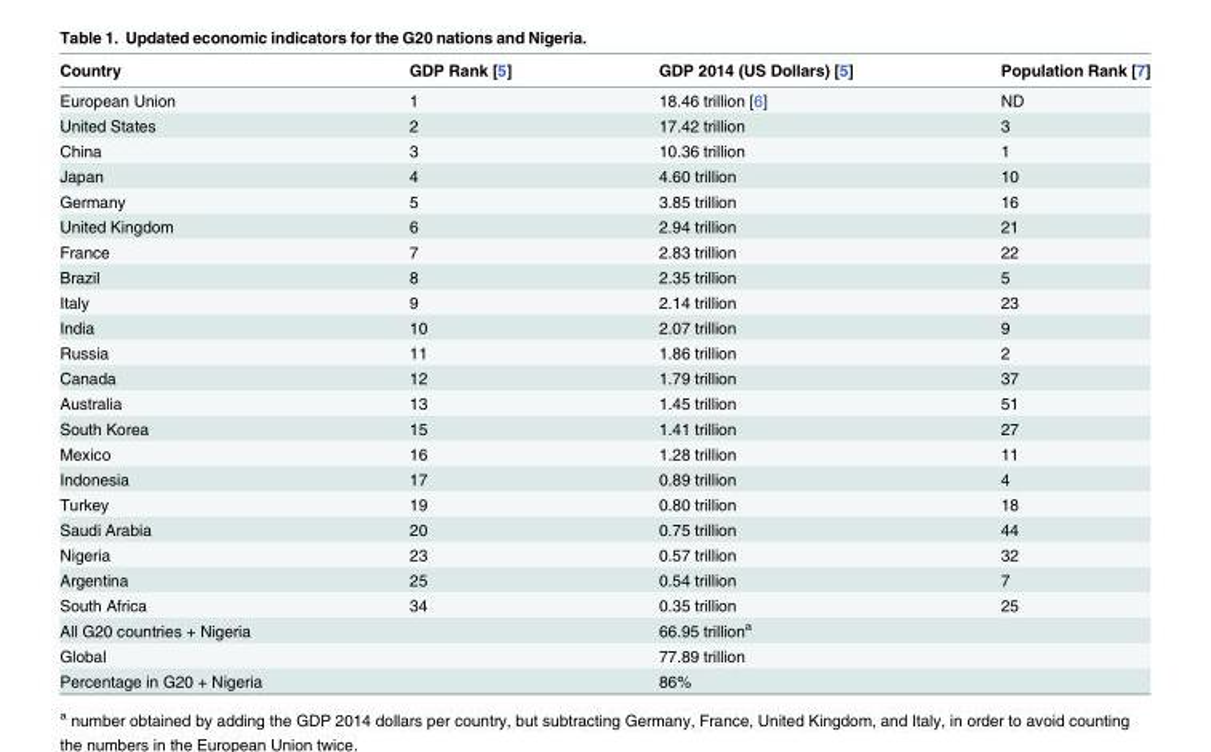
<table><thead><tr><td>Country</td><td>GDP Rank [5]</td><td>GDP 2014 (US Dollars) [5]</td><td>Population Rank [7]</td></tr></thead><tbody><tr><td>European Union</td><td>1</td><td>18.46 trillion [6]</td><td>ND</td></tr><tr><td>United States</td><td>2</td><td>17.42 trillion</td><td>3</td></tr><tr><td>China</td><td>3</td><td>10.36 trillion</td><td>1</td></tr><tr><td>Japan</td><td>4</td><td>4.60 trillion</td><td>10</td></tr><tr><td>Germany</td><td>5</td><td>3.85 trillion</td><td>16</td></tr><tr><td>United Kingdom</td><td>6</td><td>2.94 trillion</td><td>21</td></tr><tr><td>France</td><td>7</td><td>2.83 trillion</td><td>22</td></tr><tr><td>Brazil</td><td>8</td><td>2.35 trillion</td><td>5</td></tr><tr><td>Italy</td><td>9</td><td>2.14 trillion</td><td>23</td></tr><tr><td>India</td><td>10</td><td>2.07 trillion</td><td>9</td></tr><tr><td>Russia</td><td>11</td><td>1.86 trillion</td><td>2</td></tr><tr><td>Canada</td><td>12</td><td>1.79 trillion</td><td>37</td></tr><tr><td>Australia</td><td>13</td><td>1.45 trillion</td><td>51</td></tr><tr><td>South Korea</td><td>15</td><td>1.41 trillion</td><td>27</td></tr><tr><td>Mexico</td><td>16</td><td>1.28 trillion</td><td>11</td></tr><tr><td>Indonesia</td><td>17</td><td>0.89 trillion</td><td>4</td></tr><tr><td>Turkey</td><td>19</td><td>0.80 trillion</td><td>18</td></tr><tr><td>Saudi Arabia</td><td>20</td><td>0.75 trillion</td><td>44</td></tr><tr><td>Nigeria</td><td>23</td><td>0.57 trillion</td><td>32</td></tr><tr><td>Argentina</td><td>25</td><td>0.54 trillion</td><td>7</td></tr><tr><td>South Africa</td><td>34</td><td>0.35 trillion</td><td>25</td></tr><tr><td>All G20 countries + Nigeria</td><td></td><td>66.95 trillion<sup>a</sup></td><td></td></tr><tr><td>Global</td><td></td><td>77.89 trillion</td><td></td></tr><tr><td>Percentage in G20 + Nigeria</td><td></td><td>86%</td><td></td></tr></tbody></table>